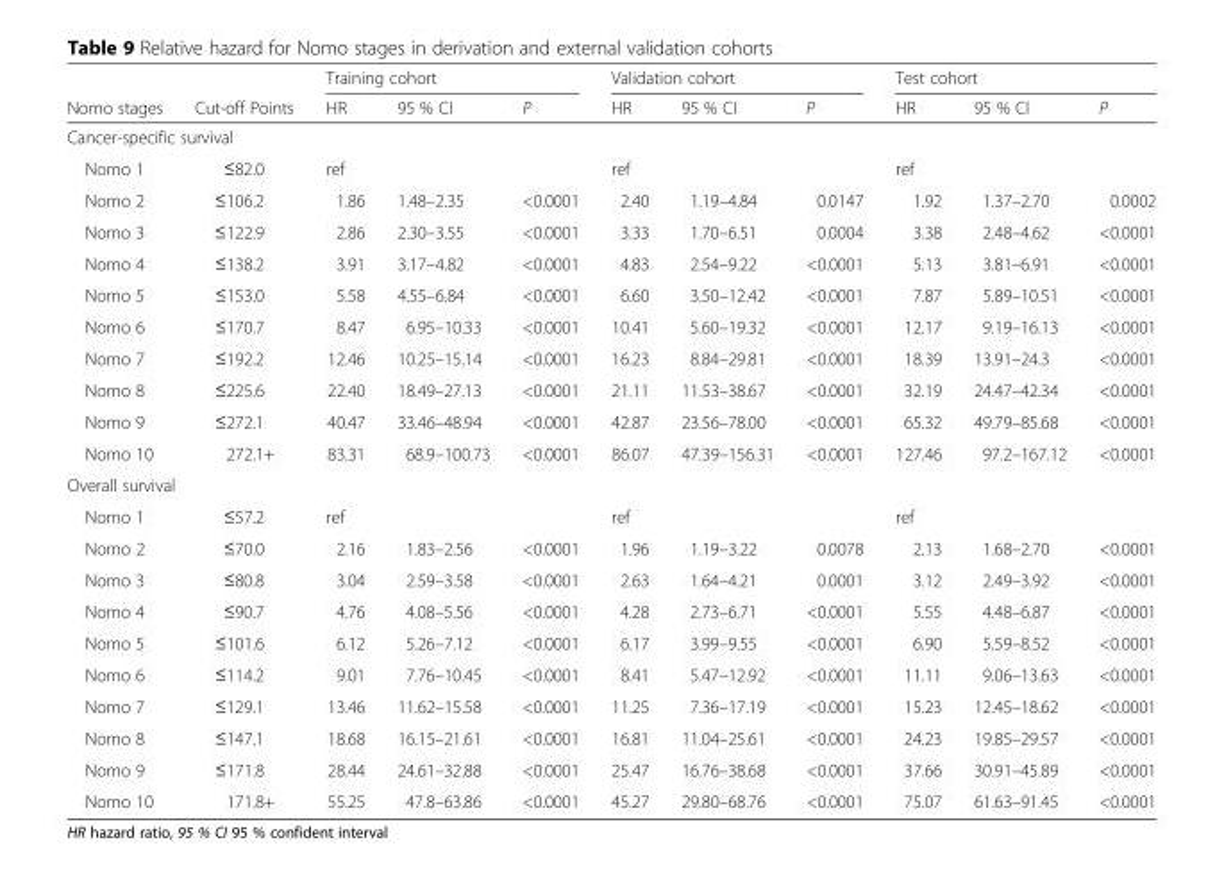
<table><thead><tr><td rowspan="2">Nomo stages</td><td rowspan="2">Cut-off Points</td><td colspan="3">Training cohort</td><td colspan="3">Validation cohort</td><td colspan="3">Test cohort</td></tr><tr><td>HR</td><td>95 % CI</td><td>P</td><td>HR</td><td>95 % CI</td><td>P</td><td>HR</td><td>95 % CI</td><td>P</td></tr></thead><tbody><tr><td colspan="11">Cancer-specific survival</td></tr><tr><td>Nomo 1</td><td>≤82.0</td><td>ref</td><td></td><td></td><td>ref</td><td></td><td></td><td>ref</td><td></td><td></td></tr><tr><td>Nomo 2</td><td>≤106.2</td><td>1.86</td><td>1.48–2.35</td><td>&lt;0.0001</td><td>2.40</td><td>1.19–4.84</td><td>0.0147</td><td>1.92</td><td>1.37–2.70</td><td>0.0002</td></tr><tr><td>Nomo 3</td><td>≤122.9</td><td>2.86</td><td>2.30–3.55</td><td>&lt;0.0001</td><td>3.33</td><td>1.70–6.51</td><td>0.0004</td><td>3.38</td><td>2.48–4.62</td><td>&lt;0.0001</td></tr><tr><td>Nomo 4</td><td>≤138.2</td><td>3.91</td><td>3.17–4.82</td><td>&lt;0.0001</td><td>4.83</td><td>2.54–9.22</td><td>&lt;0.0001</td><td>5.13</td><td>3.81–6.91</td><td>&lt;0.0001</td></tr><tr><td>Nomo 5</td><td>≤153.0</td><td>5.58</td><td>4.55–6.84</td><td>&lt;0.0001</td><td>6.60</td><td>3.50–12.42</td><td>&lt;0.0001</td><td>7.87</td><td>5.89–10.51</td><td>&lt;0.0001</td></tr><tr><td>Nomo 6</td><td>≤170.7</td><td>8.47</td><td>6.95–10.33</td><td>&lt;0.0001</td><td>10.41</td><td>5.60–19.32</td><td>&lt;0.0001</td><td>12.17</td><td>9.19–16.13</td><td>&lt;0.0001</td></tr><tr><td>Nomo 7</td><td>≤192.2</td><td>12.46</td><td>10.25–15.14</td><td>&lt;0.0001</td><td>16.23</td><td>8.84–29.81</td><td>&lt;0.0001</td><td>18.39</td><td>13.91–24.3</td><td>&lt;0.0001</td></tr><tr><td>Nomo 8</td><td>≤225.6</td><td>22.40</td><td>18.49–27.13</td><td>&lt;0.0001</td><td>21.11</td><td>11.53–38.67</td><td>&lt;0.0001</td><td>32.19</td><td>24.47–42.34</td><td>&lt;0.0001</td></tr><tr><td>Nomo 9</td><td>≤272.1</td><td>40.47</td><td>33.46–48.94</td><td>&lt;0.0001</td><td>42.87</td><td>23.56–78.00</td><td>&lt;0.0001</td><td>65.32</td><td>49.79–85.68</td><td>&lt;0.0001</td></tr><tr><td>Nomo 10</td><td>272.1+</td><td>83.31</td><td>68.9–100.73</td><td>&lt;0.0001</td><td>86.07</td><td>47.39–156.31</td><td>&lt;0.0001</td><td>127.46</td><td>97.2–167.12</td><td>&lt;0.0001</td></tr><tr><td colspan="11">Overall survival</td></tr><tr><td>Nomo 1</td><td>≤57.2</td><td>ref</td><td></td><td></td><td>ref</td><td></td><td></td><td>ref</td><td></td><td></td></tr><tr><td>Nomo 2</td><td>≤70.0</td><td>2.16</td><td>1.83–2.56</td><td>&lt;0.0001</td><td>1.96</td><td>1.19–3.22</td><td>0.0078</td><td>2.13</td><td>1.68–2.70</td><td>&lt;0.0001</td></tr><tr><td>Nomo 3</td><td>≤80.8</td><td>3.04</td><td>2.59–3.58</td><td>&lt;0.0001</td><td>2.63</td><td>1.64–4.21</td><td>0.0001</td><td>3.12</td><td>2.49–3.92</td><td>&lt;0.0001</td></tr><tr><td>Nomo 4</td><td>≤90.7</td><td>4.76</td><td>4.08–5.56</td><td>&lt;0.0001</td><td>4.28</td><td>2.73–6.71</td><td>&lt;0.0001</td><td>5.55</td><td>4.48–6.87</td><td>&lt;0.0001</td></tr><tr><td>Nomo 5</td><td>≤101.6</td><td>6.12</td><td>5.26–7.12</td><td>&lt;0.0001</td><td>6.17</td><td>3.99–9.55</td><td>&lt;0.0001</td><td>6.90</td><td>5.59–8.52</td><td>&lt;0.0001</td></tr><tr><td>Nomo 6</td><td>≤114.2</td><td>9.01</td><td>7.76–10.45</td><td>&lt;0.0001</td><td>8.41</td><td>5.47–12.92</td><td>&lt;0.0001</td><td>11.11</td><td>9.06–13.63</td><td>&lt;0.0001</td></tr><tr><td>Nomo 7</td><td>≤129.1</td><td>13.46</td><td>11.62–15.58</td><td>&lt;0.0001</td><td>11.25</td><td>7.36–17.19</td><td>&lt;0.0001</td><td>15.23</td><td>12.45–18.62</td><td>&lt;0.0001</td></tr><tr><td>Nomo 8</td><td>≤147.1</td><td>18.68</td><td>16.15–21.61</td><td>&lt;0.0001</td><td>16.81</td><td>11.04–25.61</td><td>&lt;0.0001</td><td>24.23</td><td>19.85–29.57</td><td>&lt;0.0001</td></tr><tr><td>Nomo 9</td><td>≤171.8</td><td>28.44</td><td>24.61–32.88</td><td>&lt;0.0001</td><td>25.47</td><td>16.76–38.68</td><td>&lt;0.0001</td><td>37.66</td><td>30.91–45.89</td><td>&lt;0.0001</td></tr><tr><td>Nomo 10</td><td>171.8+</td><td>55.25</td><td>47.8–63.86</td><td>&lt;0.0001</td><td>45.27</td><td>29.80–68.76</td><td>&lt;0.0001</td><td>75.07</td><td>61.63–91.45</td><td>&lt;0.0001</td></tr></tbody></table>